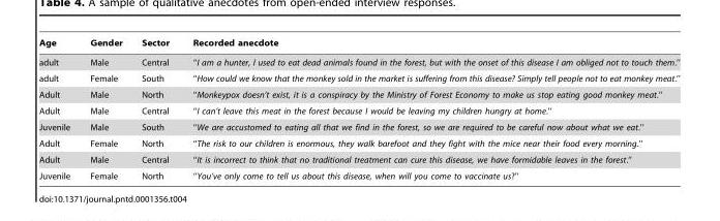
<table><thead><tr><td>Age</td><td>Gender</td><td>Sector</td><td>Recorded anecdote</td></tr></thead><tbody><tr><td>adult</td><td>Male</td><td>Central</td><td>‘‘I am a hunter, I used to eat dead animals found in the forest, but with the onset of this disease I am obliged not to touch them.’’</td></tr><tr><td>adult</td><td>Female</td><td>South</td><td>‘‘How could we know that the monkey sold in the market is suffering from this disease? Simply tell people not to eat monkey meat.’’</td></tr><tr><td>Adult</td><td>Male</td><td>North</td><td>‘‘Monkeypox doesn’t exist, it is a conspiracy by the Ministry of Forest Economy to make us stop eating good monkey meat.’’</td></tr><tr><td>Adult</td><td>Male</td><td>Central</td><td>‘‘I can’t leave this meat in the forest because I would be leaving my children hungry at home.’’</td></tr><tr><td>Juvenile</td><td>Male</td><td>South</td><td>‘‘We are accustomed to eating all that we find in the forest, so we are required to be careful now about what we eat.’’</td></tr><tr><td>Adult</td><td>Female</td><td>North</td><td>‘‘The risk to our children is enormous, they walk barefoot and they fight with the mice near their food every morning.’’</td></tr><tr><td>Adult</td><td>Male</td><td>Central</td><td>‘‘It is incorrect to think that no traditional treatment can cure this disease, we have formidable leaves in the forest.’’</td></tr><tr><td>Juvenile</td><td>Female</td><td>North</td><td>‘‘You’ve only come to tell us about this disease, when will you come to vaccinate us?’’</td></tr></tbody></table>